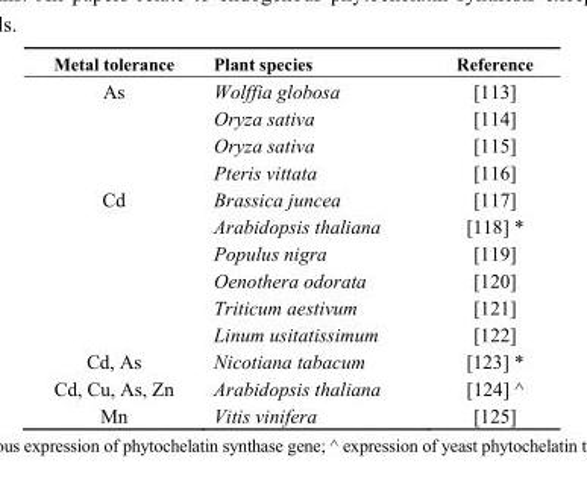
<table><thead><tr><td>Metal tolerance</td><td>Plant species</td><td>Reference</td></tr></thead><tbody><tr><td rowspan="4">As</td><td>Wolffia globosa</td><td>[113]</td></tr><tr><td>Oryza sativa</td><td>[114]</td></tr><tr><td>Oryza sativa</td><td>[115]</td></tr><tr><td>Pteris vittata</td><td>[116]</td></tr><tr><td rowspan="6">Cd</td><td>Brassica juncea</td><td>[117]</td></tr><tr><td>Arabidopsis thaliana</td><td>[118] *</td></tr><tr><td>Populus nigra</td><td>[119]</td></tr><tr><td>Oenothera odorata</td><td>[120]</td></tr><tr><td>Triticum aestivum</td><td>[121]</td></tr><tr><td>Linum usitatissimum</td><td>[122]</td></tr><tr><td>Cd, As</td><td>Nicotiana tabacum</td><td>[123] *</td></tr><tr><td>Cd, Cu, As, Zn</td><td>Arabidopsis thaliana</td><td>[124] ^</td></tr><tr><td>Mn</td><td>Vitis vinifera</td><td>[125]</td></tr></tbody></table>